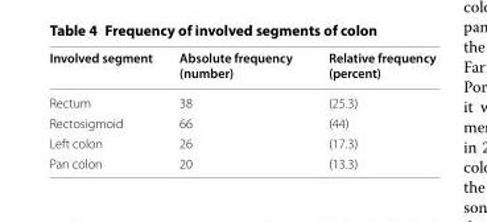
<table><thead><tr><td>Involved segment</td><td>Absolute frequency (number)</td><td>Relative frequency (percent)</td></tr></thead><tbody><tr><td>Rectum</td><td>38</td><td>(25.3)</td></tr><tr><td>Rectosigmoid</td><td>66</td><td>(44)</td></tr><tr><td>Left colon</td><td>26</td><td>(17.3)</td></tr><tr><td>Pan colon</td><td>20</td><td>(13.3)</td></tr></tbody></table>